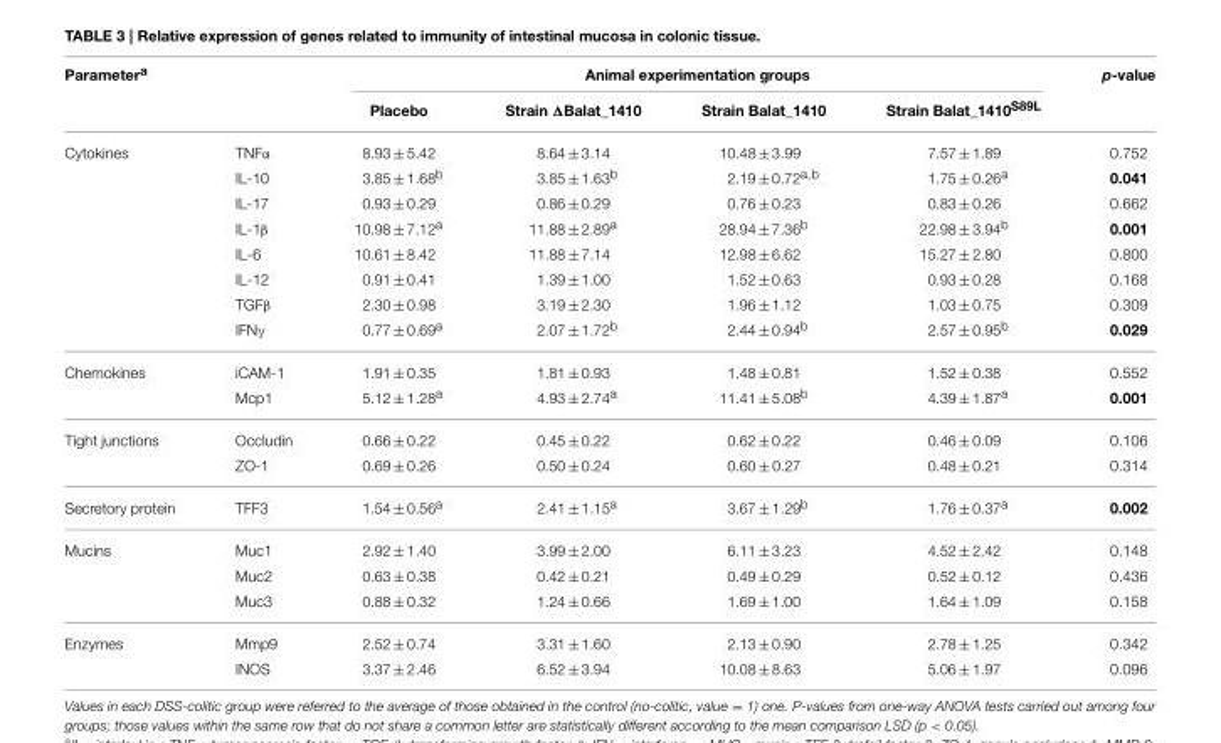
<table><thead><tr><td rowspan="2">Parameter<sup>a</sup></td><td rowspan="2"></td><td colspan="4">Animal experimentation groups</td><td rowspan="2">p-value</td></tr><tr><td>Placebo</td><td>Strain ΔBalat_1410</td><td>Strain Balat_1410</td><td>Strain Balat_1410<sup>S89L</sup></td></tr></thead><tbody><tr><td rowspan="8">Cytokines</td><td>TNFα</td><td>8.93 ± 5.42</td><td>8.64 ± 3.14</td><td>10.48 ± 3.99</td><td>7.57 ± 1.89</td><td>0.752</td></tr><tr><td>IL-10</td><td>3.85 ± 1.68<sup>b</sup></td><td>3.85 ± 1.63<sup>b</sup></td><td>2.19 ± 0.72<sup>a</sup>,<sup>b</sup></td><td>1.75 ± 0.26<sup>a</sup></td><td>0.041</td></tr><tr><td>IL-17</td><td>0.93 ± 0.29</td><td>0.86 ± 0.29</td><td>0.76 ± 0.23</td><td>0.83 ± 0.26</td><td>0.662</td></tr><tr><td>IL-1β</td><td>10.98 ± 7.12<sup>a</sup></td><td>11.88 ± 2.89<sup>a</sup></td><td>28.94 ± 7.36<sup>b</sup></td><td>22.98 ± 3.94<sup>b</sup></td><td>0.001</td></tr><tr><td>IL-6</td><td>10.61 ± 8.42</td><td>11.88 ± 7.14</td><td>12.98 ± 6.62</td><td>15.27 ± 2.80</td><td>0.800</td></tr><tr><td>IL-12</td><td>0.91 ± 0.41</td><td>1.39 ± 1.00</td><td>1.52 ± 0.63</td><td>0.93 ± 0.28</td><td>0.168</td></tr><tr><td>TGFβ</td><td>2.30 ± 0.98</td><td>3.19 ± 2.30</td><td>1.96 ± 1.12</td><td>1.03 ± 0.75</td><td>0.309</td></tr><tr><td>IFNγ</td><td>0.77 ± 0.69<sup>a</sup></td><td>2.07 ± 1.72<sup>b</sup></td><td>2.44 ± 0.94<sup>b</sup></td><td>2.57 ± 0.95<sup>b</sup></td><td>0.029</td></tr><tr><td rowspan="2">Chemokines</td><td>iCAM-1</td><td>1.91 ± 0.35</td><td>1.81 ± 0.93</td><td>1.48 ± 0.81</td><td>1.52 ± 0.38</td><td>0.552</td></tr><tr><td>Mcp1</td><td>5.12 ± 1.28<sup>a</sup></td><td>4.93 ± 2.74<sup>a</sup></td><td>11.41 ± 5.08<sup>b</sup></td><td>4.39 ± 1.87<sup>a</sup></td><td>0.001</td></tr><tr><td rowspan="2">Tight junctions</td><td>Occludin</td><td>0.66 ± 0.22</td><td>0.45 ± 0.22</td><td>0.62 ± 0.22</td><td>0.46 ± 0.09</td><td>0.106</td></tr><tr><td>ZO-1</td><td>0.69 ± 0.26</td><td>0.50 ± 0.24</td><td>0.60 ± 0.27</td><td>0.48 ± 0.21</td><td>0.314</td></tr><tr><td>Secretory protein</td><td>TFF3</td><td>1.54 ± 0.56<sup>a</sup></td><td>2.41 ± 1.15<sup>a</sup></td><td>3.67 ± 1.29<sup>b</sup></td><td>1.76 ± 0.37<sup>a</sup></td><td>0.002</td></tr><tr><td rowspan="3">Mucins</td><td>Muc1</td><td>2.92 ± 1.40</td><td>3.99 ± 2.00</td><td>6.11 ± 3.23</td><td>4.52 ± 2.42</td><td>0.148</td></tr><tr><td>Muc2</td><td>0.63 ± 0.38</td><td>0.42 ± 0.21</td><td>0.49 ± 0.29</td><td>0.52 ± 0.12</td><td>0.436</td></tr><tr><td>Muc3</td><td>0.88 ± 0.32</td><td>1.24 ± 0.66</td><td>1.69 ± 1.00</td><td>1.64 ± 1.09</td><td>0.158</td></tr><tr><td rowspan="2">Enzymes</td><td>Mmp9</td><td>2.52 ± 0.74</td><td>3.31 ± 1.60</td><td>2.13 ± 0.90</td><td>2.78 ± 1.25</td><td>0.342</td></tr><tr><td>INOS</td><td>3.37 ± 2.46</td><td>6.52 ± 3.94</td><td>10.08 ± 8.63</td><td>5.06 ± 1.97</td><td>0.096</td></tr></tbody></table>